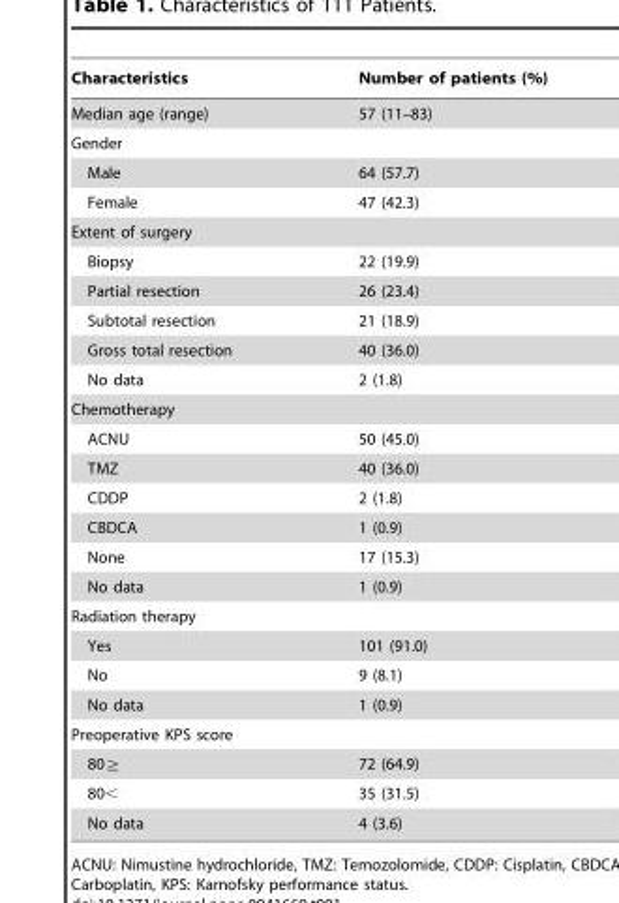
<table><thead><tr><td>Characteristics</td><td>Number of patients (%)</td></tr></thead><tbody><tr><td>Median age (range)</td><td>57 (11–83)</td></tr><tr><td colspan="2">Gender</td></tr><tr><td>Male</td><td>64 (57.7)</td></tr><tr><td>Female</td><td>47 (42.3)</td></tr><tr><td colspan="2">Extent of surgery</td></tr><tr><td>Biopsy</td><td>22 (19.9)</td></tr><tr><td>Partial resection</td><td>26 (23.4)</td></tr><tr><td>Subtotal resection</td><td>21 (18.9)</td></tr><tr><td>Gross total resection</td><td>40 (36.0)</td></tr><tr><td>No data</td><td>2 (1.8)</td></tr><tr><td colspan="2">Chemotherapy</td></tr><tr><td>ACNU</td><td>50 (45.0)</td></tr><tr><td>TMZ</td><td>40 (36.0)</td></tr><tr><td>CDDP</td><td>2 (1.8)</td></tr><tr><td>CBDCA</td><td>1 (0.9)</td></tr><tr><td>None</td><td>17 (15.3)</td></tr><tr><td>No data</td><td>1 (0.9)</td></tr><tr><td colspan="2">Radiation therapy</td></tr><tr><td>Yes</td><td>101 (91.0)</td></tr><tr><td>No</td><td>9 (8.1)</td></tr><tr><td>No data</td><td>1 (0.9)</td></tr><tr><td colspan="2">Preoperative KPS score</td></tr><tr><td>80≧</td><td>72 (64.9)</td></tr><tr><td>80&lt;</td><td>35 (31.5)</td></tr><tr><td>No data</td><td>4 (3.6)</td></tr></tbody></table>